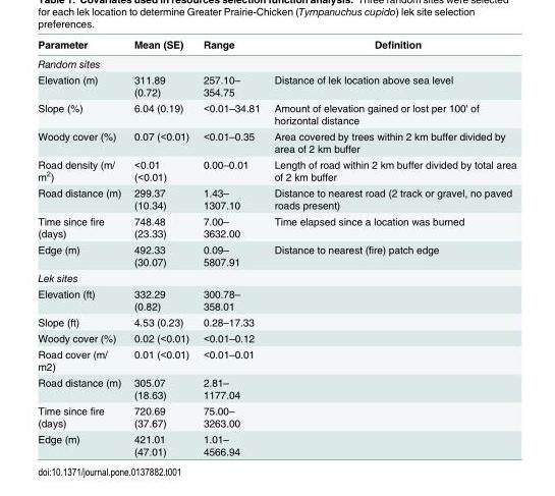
<table><thead><tr><td>Parameter</td><td>Mean (SE)</td><td>Range</td><td>Definition</td></tr></thead><tbody><tr><td colspan="4">Random sites</td></tr><tr><td>Elevation (m)</td><td>311.89 (0.72)</td><td>257.10– 354.75</td><td>Distance of lek location above sea level</td></tr><tr><td>Slope (%)</td><td>6.04 (0.19)</td><td>&lt;0.01–34.81</td><td>Amount of elevation gained or lost per 100&#x27; of horizontal distance</td></tr><tr><td>Woody cover (%)</td><td>0.07 (&lt;0.01)</td><td>&lt;0.01–0.35</td><td>Area covered by trees within 2 km buffer divided by area of 2 km buffer</td></tr><tr><td>Road density (m/ m<sup>2</sup>)</td><td>&lt;0.01 (&lt;0.01)</td><td>0.00–0.01</td><td>Length of road within 2 km buffer divided by total area of 2 km buffer</td></tr><tr><td>Road distance (m)</td><td>299.37 (10.34)</td><td>1.43– 1307.10</td><td>Distance to nearest road (2 track or gravel, no paved roads present)</td></tr><tr><td>Time since fire (days)</td><td>748.48 (23.33)</td><td>7.00– 3632.00</td><td>Time elapsed since a location was burned</td></tr><tr><td>Edge (m)</td><td>492.33 (30.07)</td><td>0.09– 5807.91</td><td>Distance to nearest (fire) patch edge</td></tr><tr><td colspan="4">Lek sites</td></tr><tr><td>Elevation (ft)</td><td>332.29 (0.82)</td><td>300.78– 358.01</td><td></td></tr><tr><td>Slope (ft)</td><td>4.53 (0.23)</td><td>0.28–17.33</td><td></td></tr><tr><td>Woody cover (%)</td><td>0.02 (&lt;0.01)</td><td>&lt;0.01–0.12</td><td></td></tr><tr><td>Road cover (m/ m2)</td><td>0.01 (&lt;0.01)</td><td>&lt;0.01–0.01</td><td></td></tr><tr><td>Road distance (m)</td><td>305.07 (18.63)</td><td>2.81– 1177.04</td><td></td></tr><tr><td>Time since fire (days)</td><td>720.69 (37.67)</td><td>75.00– 3263.00</td><td></td></tr><tr><td>Edge (m)</td><td>421.01 (47.01)</td><td>1.01– 4566.94</td><td></td></tr></tbody></table>